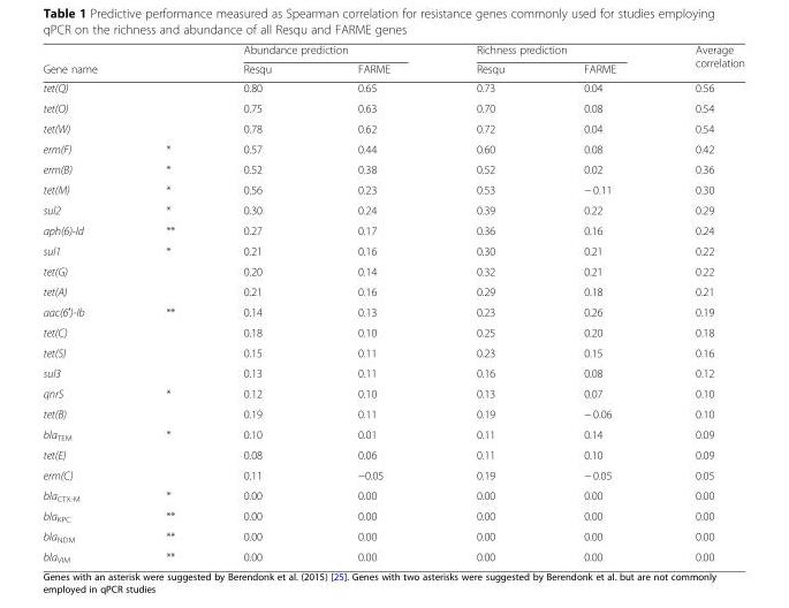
<table><thead><tr><td rowspan="2">Gene name</td><td rowspan="2"></td><td colspan="2">Abundance prediction</td><td colspan="2">Richness prediction</td><td rowspan="2">Average correlation</td></tr><tr><td>Resqu</td><td>FARME</td><td>Resqu</td><td>FARME</td></tr></thead><tbody><tr><td>tet(Q)</td><td></td><td>0.80</td><td>0.65</td><td>0.73</td><td>0.04</td><td>0.56</td></tr><tr><td>tet(O)</td><td></td><td>0.75</td><td>0.63</td><td>0.70</td><td>0.08</td><td>0.54</td></tr><tr><td>tet(W)</td><td></td><td>0.78</td><td>0.62</td><td>0.72</td><td>0.04</td><td>0.54</td></tr><tr><td>erm(F)</td><td>*</td><td>0.57</td><td>0.44</td><td>0.60</td><td>0.08</td><td>0.42</td></tr><tr><td>erm(B)</td><td>*</td><td>0.52</td><td>0.38</td><td>0.52</td><td>0.02</td><td>0.36</td></tr><tr><td>tet(M)</td><td>*</td><td>0.56</td><td>0.23</td><td>0.53</td><td>− 0.11</td><td>0.30</td></tr><tr><td>sul2</td><td>*</td><td>0.30</td><td>0.24</td><td>0.39</td><td>0.22</td><td>0.29</td></tr><tr><td>aph(6)-Id</td><td>**</td><td>0.27</td><td>0.17</td><td>0.36</td><td>0.16</td><td>0.24</td></tr><tr><td>sul1</td><td>*</td><td>0.21</td><td>0.16</td><td>0.30</td><td>0.21</td><td>0.22</td></tr><tr><td>tet(G)</td><td></td><td>0.20</td><td>0.14</td><td>0.32</td><td>0.21</td><td>0.22</td></tr><tr><td>tet(A)</td><td></td><td>0.21</td><td>0.16</td><td>0.29</td><td>0.18</td><td>0.21</td></tr><tr><td>aac(6′)-Ib</td><td>**</td><td>0.14</td><td>0.13</td><td>0.23</td><td>0.26</td><td>0.19</td></tr><tr><td>tet(C)</td><td></td><td>0.18</td><td>0.10</td><td>0.25</td><td>0.20</td><td>0.18</td></tr><tr><td>tet(S)</td><td></td><td>0.15</td><td>0.11</td><td>0.23</td><td>0.15</td><td>0.16</td></tr><tr><td>sul3</td><td></td><td>0.13</td><td>0.11</td><td>0.16</td><td>0.08</td><td>0.12</td></tr><tr><td>qnrS</td><td>*</td><td>0.12</td><td>0.10</td><td>0.13</td><td>0.07</td><td>0.10</td></tr><tr><td>tet(B)</td><td></td><td>0.19</td><td>0.11</td><td>0.19</td><td>− 0.06</td><td>0.10</td></tr><tr><td>bla<sub>TEM</sub></td><td>*</td><td>0.10</td><td>0.01</td><td>0.11</td><td>0.14</td><td>0.09</td></tr><tr><td>tet(E)</td><td></td><td>0.08</td><td>0.06</td><td>0.11</td><td>0.10</td><td>0.09</td></tr><tr><td>erm(C)</td><td></td><td>0.11</td><td>−0.05</td><td>0.19</td><td>− 0.05</td><td>0.05</td></tr><tr><td>bla<sub>CTX-M</sub></td><td>*</td><td>0.00</td><td>0.00</td><td>0.00</td><td>0.00</td><td>0.00</td></tr><tr><td>bla<sub>KPC</sub></td><td>**</td><td>0.00</td><td>0.00</td><td>0.00</td><td>0.00</td><td>0.00</td></tr><tr><td>bla<sub>NDM</sub></td><td>**</td><td>0.00</td><td>0.00</td><td>0.00</td><td>0.00</td><td>0.00</td></tr><tr><td>bla<sub>VIM</sub></td><td>**</td><td>0.00</td><td>0.00</td><td>0.00</td><td>0.00</td><td>0.00</td></tr></tbody></table>